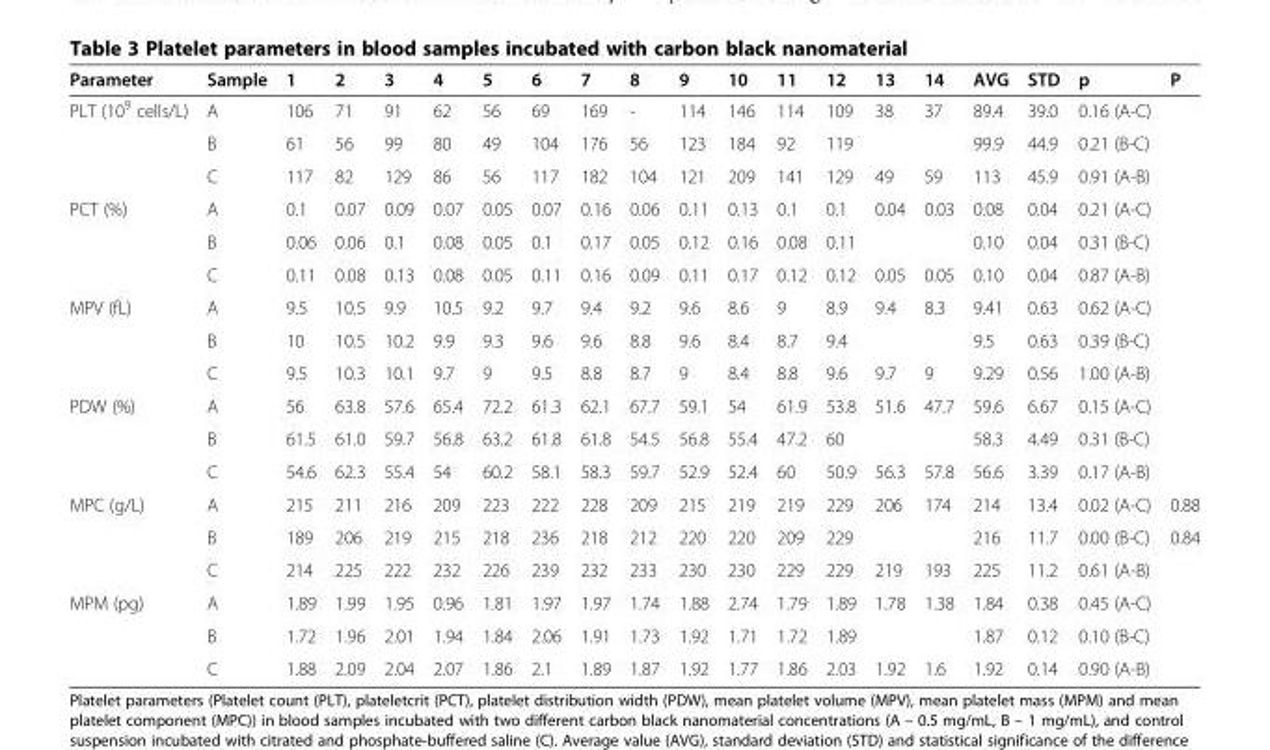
<table><thead><tr><td>Parameter</td><td>Sample</td><td>1</td><td>2</td><td>3</td><td>4</td><td>5</td><td>6</td><td>7</td><td>8</td><td>9</td><td>10</td><td>11</td><td>12</td><td>13</td><td>14</td><td>AVG</td><td>STD</td><td>p</td><td>P</td></tr></thead><tbody><tr><td rowspan="3">PLT (10<sup>9</sup> cells/L)</td><td>A</td><td>106</td><td>71</td><td>91</td><td>62</td><td>56</td><td>69</td><td>169</td><td>-</td><td>114</td><td>146</td><td>114</td><td>109</td><td>38</td><td>37</td><td>89.4</td><td>39.0</td><td>0.16 (A-C)</td><td></td></tr><tr><td>B</td><td>61</td><td>56</td><td>99</td><td>80</td><td>49</td><td>104</td><td>176</td><td>56</td><td>123</td><td>184</td><td>92</td><td>119</td><td></td><td></td><td>99.9</td><td>44.9</td><td>0.21 (B-C)</td><td></td></tr><tr><td>C</td><td>117</td><td>82</td><td>129</td><td>86</td><td>56</td><td>117</td><td>182</td><td>104</td><td>121</td><td>209</td><td>141</td><td>129</td><td>49</td><td>59</td><td>113</td><td>45.9</td><td>0.91 (A-B)</td><td></td></tr><tr><td rowspan="3">PCT (%)</td><td>A</td><td>0.1</td><td>0.07</td><td>0.09</td><td>0.07</td><td>0.05</td><td>0.07</td><td>0.16</td><td>0.06</td><td>0.11</td><td>0.13</td><td>0.1</td><td>0.1</td><td>0.04</td><td>0.03</td><td>0.08</td><td>0.04</td><td>0.21 (A-C)</td><td></td></tr><tr><td>B</td><td>0.06</td><td>0.06</td><td>0.1</td><td>0.08</td><td>0.05</td><td>0.1</td><td>0.17</td><td>0.05</td><td>0.12</td><td>0.16</td><td>0.08</td><td>0.11</td><td></td><td></td><td>0.10</td><td>0.04</td><td>0.31 (B-C)</td><td></td></tr><tr><td>C</td><td>0.11</td><td>0.08</td><td>0.13</td><td>0.08</td><td>0.05</td><td>0.11</td><td>0.16</td><td>0.09</td><td>0.11</td><td>0.17</td><td>0.12</td><td>0.12</td><td>0.05</td><td>0.05</td><td>0.10</td><td>0.04</td><td>0.87 (A-B)</td><td></td></tr><tr><td rowspan="3">MPV (fL)</td><td>A</td><td>9.5</td><td>10.5</td><td>9.9</td><td>10.5</td><td>9.2</td><td>9.7</td><td>9.4</td><td>9.2</td><td>9.6</td><td>8.6</td><td>9</td><td>8.9</td><td>9.4</td><td>8.3</td><td>9.41</td><td>0.63</td><td>0.62 (A-C)</td><td></td></tr><tr><td>B</td><td>10</td><td>10.5</td><td>10.2</td><td>9.9</td><td>9.3</td><td>9.6</td><td>9.6</td><td>8.8</td><td>9.6</td><td>8.4</td><td>8.7</td><td>9.4</td><td></td><td></td><td>9.5</td><td>0.63</td><td>0.39 (B-C)</td><td></td></tr><tr><td>C</td><td>9.5</td><td>10.3</td><td>10.1</td><td>9.7</td><td>9</td><td>9.5</td><td>8.8</td><td>8.7</td><td>9</td><td>8.4</td><td>8.8</td><td>9.6</td><td>9.7</td><td>9</td><td>9.29</td><td>0.56</td><td>1.00 (A-B)</td><td></td></tr><tr><td rowspan="3">PDW (%)</td><td>A</td><td>56</td><td>63.8</td><td>57.6</td><td>65.4</td><td>72.2</td><td>61.3</td><td>62.1</td><td>67.7</td><td>59.1</td><td>54</td><td>61.9</td><td>53.8</td><td>51.6</td><td>47.7</td><td>59.6</td><td>6.67</td><td>0.15 (A-C)</td><td></td></tr><tr><td>B</td><td>61.5</td><td>61.0</td><td>59.7</td><td>56.8</td><td>63.2</td><td>61.8</td><td>61.8</td><td>54.5</td><td>56.8</td><td>55.4</td><td>47.2</td><td>60</td><td></td><td></td><td>58.3</td><td>4.49</td><td>0.31 (B-C)</td><td></td></tr><tr><td>C</td><td>54.6</td><td>62.3</td><td>55.4</td><td>54</td><td>60.2</td><td>58.1</td><td>58.3</td><td>59.7</td><td>52.9</td><td>52.4</td><td>60</td><td>50.9</td><td>56.3</td><td>57.8</td><td>56.6</td><td>3.39</td><td>0.17 (A-B)</td><td></td></tr><tr><td rowspan="3">MPC (g/L)</td><td>A</td><td>215</td><td>211</td><td>216</td><td>209</td><td>223</td><td>222</td><td>228</td><td>209</td><td>215</td><td>219</td><td>219</td><td>229</td><td>206</td><td>174</td><td>214</td><td>13.4</td><td>0.02 (A-C)</td><td>0.88</td></tr><tr><td>B</td><td>189</td><td>206</td><td>219</td><td>215</td><td>218</td><td>236</td><td>218</td><td>212</td><td>220</td><td>220</td><td>209</td><td>229</td><td></td><td></td><td>216</td><td>11.7</td><td>0.00 (B-C)</td><td>0.84</td></tr><tr><td>C</td><td>214</td><td>225</td><td>222</td><td>232</td><td>226</td><td>239</td><td>232</td><td>233</td><td>230</td><td>230</td><td>229</td><td>229</td><td>219</td><td>193</td><td>225</td><td>11.2</td><td>0.61 (A-B)</td><td></td></tr><tr><td rowspan="3">MPM (pg)</td><td>A</td><td>1.89</td><td>1.99</td><td>1.95</td><td>0.96</td><td>1.81</td><td>1.97</td><td>1.97</td><td>1.74</td><td>1.88</td><td>2.74</td><td>1.79</td><td>1.89</td><td>1.78</td><td>1.38</td><td>1.84</td><td>0.38</td><td>0.45 (A-C)</td><td></td></tr><tr><td>B</td><td>1.72</td><td>1.96</td><td>2.01</td><td>1.94</td><td>1.84</td><td>2.06</td><td>1.91</td><td>1.73</td><td>1.92</td><td>1.71</td><td>1.72</td><td>1.89</td><td></td><td></td><td>1.87</td><td>0.12</td><td>0.10 (B-C)</td><td></td></tr><tr><td>C</td><td>1.88</td><td>2.09</td><td>2.04</td><td>2.07</td><td>1.86</td><td>2.1</td><td>1.89</td><td>1.87</td><td>1.92</td><td>1.77</td><td>1.86</td><td>2.03</td><td>1.92</td><td>1.6</td><td>1.92</td><td>0.14</td><td>0.90 (A-B)</td><td></td></tr></tbody></table>